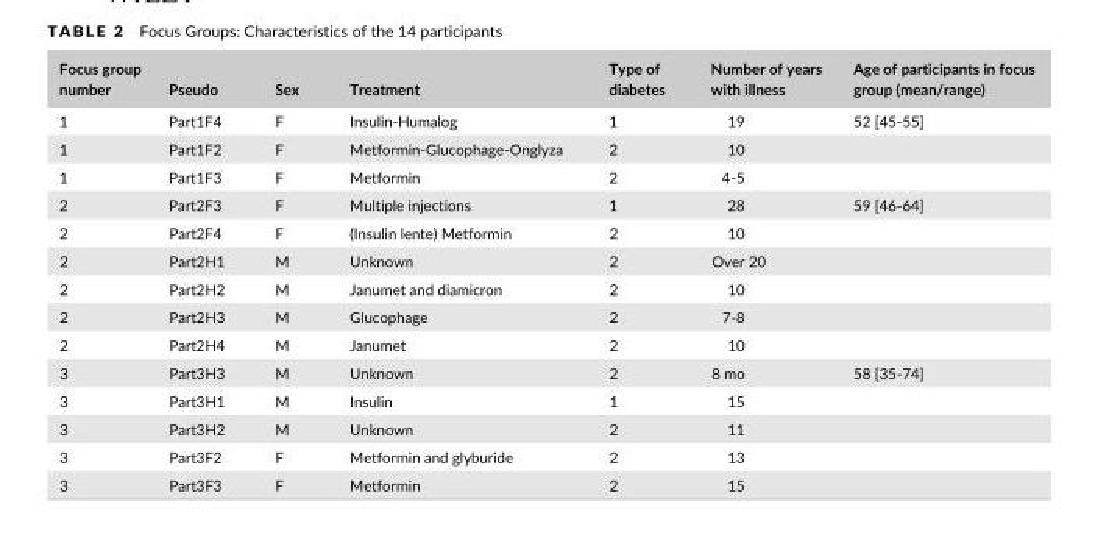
<table><thead><tr><td>Focus group number</td><td>Pseudo</td><td>Sex</td><td>Treatment</td><td>Type of diabetes</td><td>Number of years with illness</td><td>Age of participants in focus group (mean/range)</td></tr></thead><tbody><tr><td>1</td><td>Part1F4</td><td>F</td><td>Insulin- Humalog</td><td>1</td><td>19</td><td>52 [45- 55]</td></tr><tr><td>1</td><td>Part1F2</td><td>F</td><td>Metformin- Glucophage- Onglyza</td><td>2</td><td>10</td><td></td></tr><tr><td>1</td><td>Part1F3</td><td>F</td><td>Metformin</td><td>2</td><td>4- 5</td><td></td></tr><tr><td>2</td><td>Part2F3</td><td>F</td><td>Multiple injections</td><td>1</td><td>28</td><td>59 [46- 64]</td></tr><tr><td>2</td><td>Part2F4</td><td>F</td><td>(Insulin lente) Metformin</td><td>2</td><td>10</td><td></td></tr><tr><td>2</td><td>Part2H1</td><td>M</td><td>Unknown</td><td>2</td><td>Over 20</td><td></td></tr><tr><td>2</td><td>Part2H2</td><td>M</td><td>Janumet and diamicron</td><td>2</td><td>10</td><td></td></tr><tr><td>2</td><td>Part2H3</td><td>M</td><td>Glucophage</td><td>2</td><td>7- 8</td><td></td></tr><tr><td>2</td><td>Part2H4</td><td>M</td><td>Janumet</td><td>2</td><td>10</td><td></td></tr><tr><td>3</td><td>Part3H3</td><td>M</td><td>Unknown</td><td>2</td><td>8 mo</td><td>58 [35- 74]</td></tr><tr><td>3</td><td>Part3H1</td><td>M</td><td>Insulin</td><td>1</td><td>15</td><td></td></tr><tr><td>3</td><td>Part3H2</td><td>M</td><td>Unknown</td><td>2</td><td>11</td><td></td></tr><tr><td>3</td><td>Part3F2</td><td>F</td><td>Metformin and glyburide</td><td>2</td><td>13</td><td></td></tr><tr><td>3</td><td>Part3F3</td><td>F</td><td>Metformin</td><td>2</td><td>15</td><td></td></tr></tbody></table>